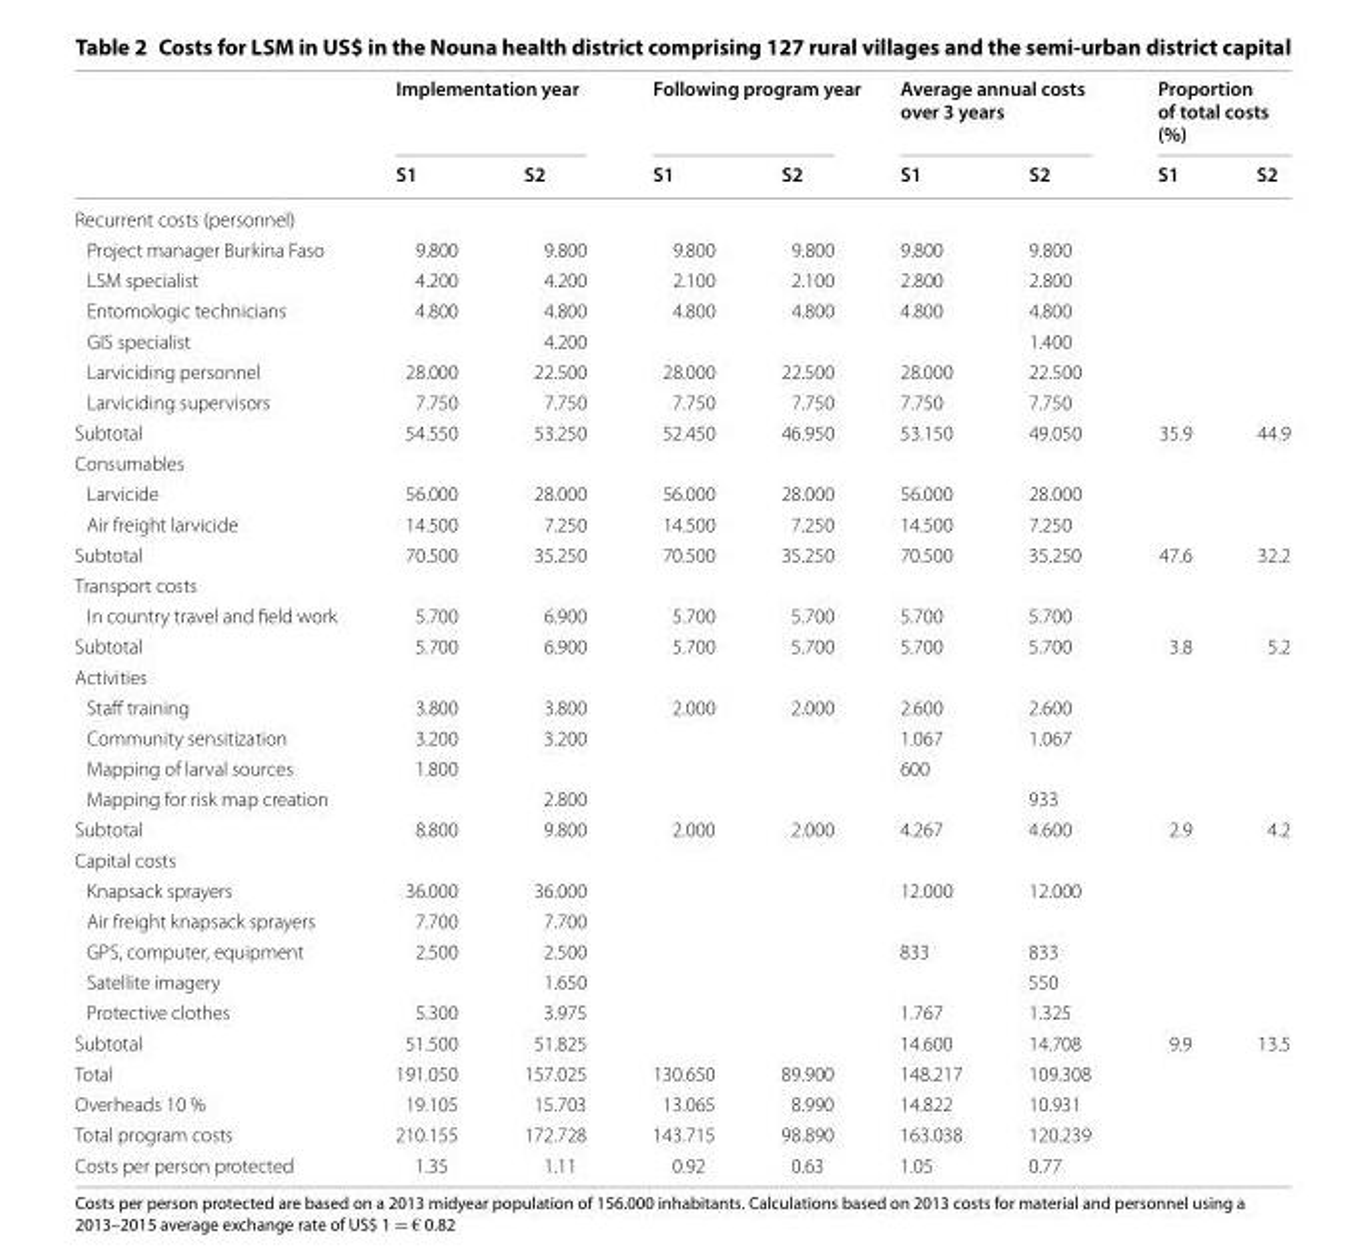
<table><thead><tr><td rowspan="2"></td><td colspan="2">Implementation year</td><td colspan="2">Following program year</td><td colspan="2">Average annual costs over 3 years</td><td colspan="2">Proportion of total costs (%)</td></tr><tr><td>S1</td><td>S2</td><td>S1</td><td>S2</td><td>S1</td><td>S2</td><td>S1</td><td>S2</td></tr></thead><tbody><tr><td colspan="9">Recurrent costs (personnel)</td></tr><tr><td>Project manager Burkina Faso</td><td>9.800</td><td>9.800</td><td>9.800</td><td>9.800</td><td>9.800</td><td>9.800</td><td></td><td></td></tr><tr><td>LSM specialist</td><td>4.200</td><td>4.200</td><td>2.100</td><td>2.100</td><td>2.800</td><td>2.800</td><td></td><td></td></tr><tr><td>Entomologic technicians</td><td>4.800</td><td>4.800</td><td>4.800</td><td>4.800</td><td>4.800</td><td>4.800</td><td></td><td></td></tr><tr><td>GIS specialist</td><td></td><td>4.200</td><td></td><td></td><td></td><td>1.400</td><td></td><td></td></tr><tr><td>Larviciding personnel</td><td>28.000</td><td>22.500</td><td>28.000</td><td>22.500</td><td>28.000</td><td>22.500</td><td></td><td></td></tr><tr><td>Larviciding supervisors</td><td>7.750</td><td>7.750</td><td>7.750</td><td>7.750</td><td>7.750</td><td>7.750</td><td></td><td></td></tr><tr><td>Subtotal</td><td>54.550</td><td>53.250</td><td>52.450</td><td>46.950</td><td>53.150</td><td>49.050</td><td>35.9</td><td>44.9</td></tr><tr><td colspan="9">Consumables</td></tr><tr><td>Larvicide</td><td>56.000</td><td>28.000</td><td>56.000</td><td>28.000</td><td>56.000</td><td>28.000</td><td></td><td></td></tr><tr><td>Air freight larvicide</td><td>14.500</td><td>7.250</td><td>14.500</td><td>7.250</td><td>14.500</td><td>7.250</td><td></td><td></td></tr><tr><td>Subtotal</td><td>70.500</td><td>35.250</td><td>70.500</td><td>35.250</td><td>70.500</td><td>35.250</td><td>47.6</td><td>32.2</td></tr><tr><td colspan="9">Transport costs</td></tr><tr><td>In country travel and field work</td><td>5.700</td><td>6.900</td><td>5.700</td><td>5.700</td><td>5.700</td><td>5.700</td><td></td><td></td></tr><tr><td>Subtotal</td><td>5.700</td><td>6.900</td><td>5.700</td><td>5.700</td><td>5.700</td><td>5.700</td><td>3.8</td><td>5.2</td></tr><tr><td colspan="9">Activities</td></tr><tr><td>Staff training</td><td>3.800</td><td>3.800</td><td>2.000</td><td>2.000</td><td>2.600</td><td>2.600</td><td></td><td></td></tr><tr><td>Community sensitization</td><td>3.200</td><td>3.200</td><td></td><td></td><td>1.067</td><td>1.067</td><td></td><td></td></tr><tr><td>Mapping of larval sources</td><td>1.800</td><td></td><td></td><td></td><td>600</td><td></td><td></td><td></td></tr><tr><td>Mapping for risk map creation</td><td></td><td>2.800</td><td></td><td></td><td></td><td>933</td><td></td><td></td></tr><tr><td>Subtotal</td><td>8.800</td><td>9.800</td><td>2.000</td><td>2.000</td><td>4.267</td><td>4.600</td><td>2.9</td><td>4.2</td></tr><tr><td colspan="9">Capital costs</td></tr><tr><td>Knapsack sprayers</td><td>36.000</td><td>36.000</td><td></td><td></td><td>12.000</td><td>12.000</td><td></td><td></td></tr><tr><td>Air freight knapsack sprayers</td><td>7.700</td><td>7.700</td><td></td><td></td><td></td><td></td><td></td><td></td></tr><tr><td>GPS, computer, equipment</td><td>2.500</td><td>2.500</td><td></td><td></td><td>833</td><td>833</td><td></td><td></td></tr><tr><td>Satellite imagery</td><td></td><td>1.650</td><td></td><td></td><td></td><td>550</td><td></td><td></td></tr><tr><td>Protective clothes</td><td>5.300</td><td>3.975</td><td></td><td></td><td>1.767</td><td>1.325</td><td></td><td></td></tr><tr><td>Subtotal</td><td>51.500</td><td>51.825</td><td></td><td></td><td>14.600</td><td>14.708</td><td>9.9</td><td>13.5</td></tr><tr><td>Total</td><td>191.050</td><td>157.025</td><td>130.650</td><td>89.900</td><td>148.217</td><td>109.308</td><td></td><td></td></tr><tr><td>Overheads 10 %</td><td>19.105</td><td>15.703</td><td>13.065</td><td>8.990</td><td>14.822</td><td>10.931</td><td></td><td></td></tr><tr><td>Total program costs</td><td>210.155</td><td>172.728</td><td>143.715</td><td>98.890</td><td>163.038</td><td>120.239</td><td></td><td></td></tr><tr><td>Costs per person protected</td><td>1.35</td><td>1.11</td><td>0.92</td><td>0.63</td><td>1.05</td><td>0.77</td><td></td><td></td></tr></tbody></table>